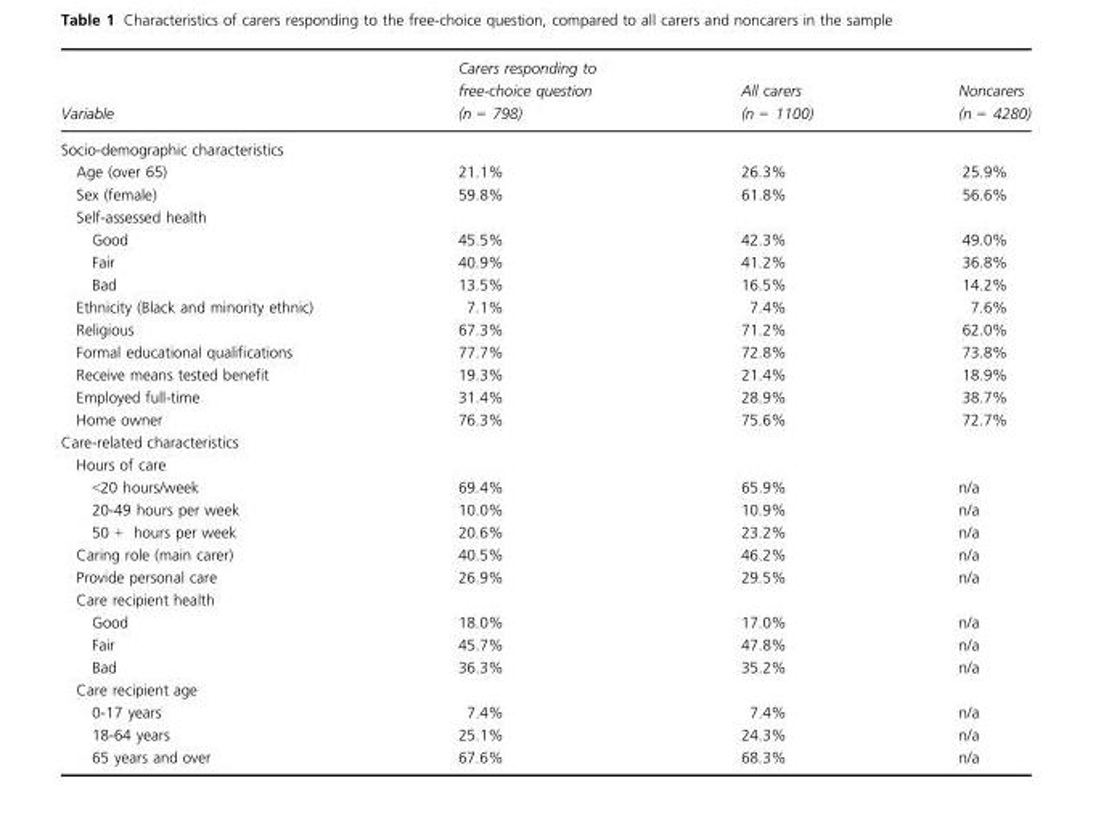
<table><thead><tr><td>Variable</td><td>Carers responding to free-choice question (n = 798)</td><td>All carers (n = 1100)</td><td>Noncarers (n = 4280)</td></tr></thead><tbody><tr><td colspan="4">Socio-demographic characteristics</td></tr><tr><td>Age (over 65)</td><td>21.1%</td><td>26.3%</td><td>25.9%</td></tr><tr><td>Sex (female)</td><td>59.8%</td><td>61.8%</td><td>56.6%</td></tr><tr><td colspan="4">Self-assessed health</td></tr><tr><td>Good</td><td>45.5%</td><td>42.3%</td><td>49.0%</td></tr><tr><td>Fair</td><td>40.9%</td><td>41.2%</td><td>36.8%</td></tr><tr><td>Bad</td><td>13.5%</td><td>16.5%</td><td>14.2%</td></tr><tr><td>Ethnicity (Black and minority ethnic)</td><td>7.1%</td><td>7.4%</td><td>7.6%</td></tr><tr><td>Religious</td><td>67.3%</td><td>71.2%</td><td>62.0%</td></tr><tr><td>Formal educational qualifications</td><td>77.7%</td><td>72.8%</td><td>73.8%</td></tr><tr><td>Receive means tested benefit</td><td>19.3%</td><td>21.4%</td><td>18.9%</td></tr><tr><td>Employed full-time</td><td>31.4%</td><td>28.9%</td><td>38.7%</td></tr><tr><td>Home owner</td><td>76.3%</td><td>75.6%</td><td>72.7%</td></tr><tr><td colspan="4">Care-related characteristics</td></tr><tr><td colspan="4">Hours of care</td></tr><tr><td>&lt;20 hours/week</td><td>69.4%</td><td>65.9%</td><td>n/a</td></tr><tr><td>20-49 hours per week</td><td>10.0%</td><td>10.9%</td><td>n/a</td></tr><tr><td>50 + hours per week</td><td>20.6%</td><td>23.2%</td><td>n/a</td></tr><tr><td>Caring role (main carer)</td><td>40.5%</td><td>46.2%</td><td>n/a</td></tr><tr><td>Provide personal care</td><td>26.9%</td><td>29.5%</td><td>n/a</td></tr><tr><td colspan="4">Care recipient health</td></tr><tr><td>Good</td><td>18.0%</td><td>17.0%</td><td>n/a</td></tr><tr><td>Fair</td><td>45.7%</td><td>47.8%</td><td>n/a</td></tr><tr><td>Bad</td><td>36.3%</td><td>35.2%</td><td>n/a</td></tr><tr><td colspan="4">Care recipient age</td></tr><tr><td>0-17 years</td><td>7.4%</td><td>7.4%</td><td>n/a</td></tr><tr><td>18-64 years</td><td>25.1%</td><td>24.3%</td><td>n/a</td></tr><tr><td>65 years and over</td><td>67.6%</td><td>68.3%</td><td>n/a</td></tr></tbody></table>